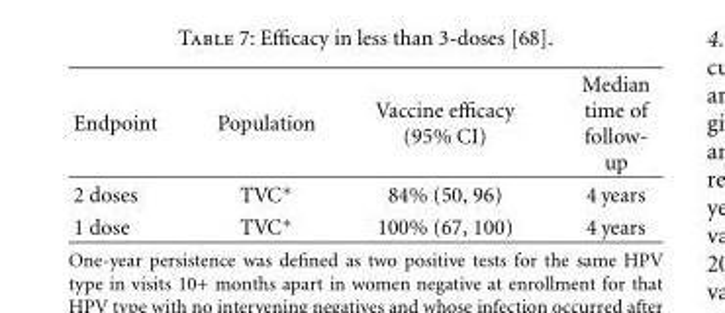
<table><thead><tr><td>Endpoint</td><td>Population</td><td>Vaccine efficacy (95% CI)</td><td>Median time of follow- up</td></tr></thead><tbody><tr><td>2 doses</td><td>TVC∗</td><td>84% (50, 96)</td><td>4 years</td></tr><tr><td>1 dose</td><td>TVC∗</td><td>100% (67, 100)</td><td>4 years</td></tr></tbody></table>